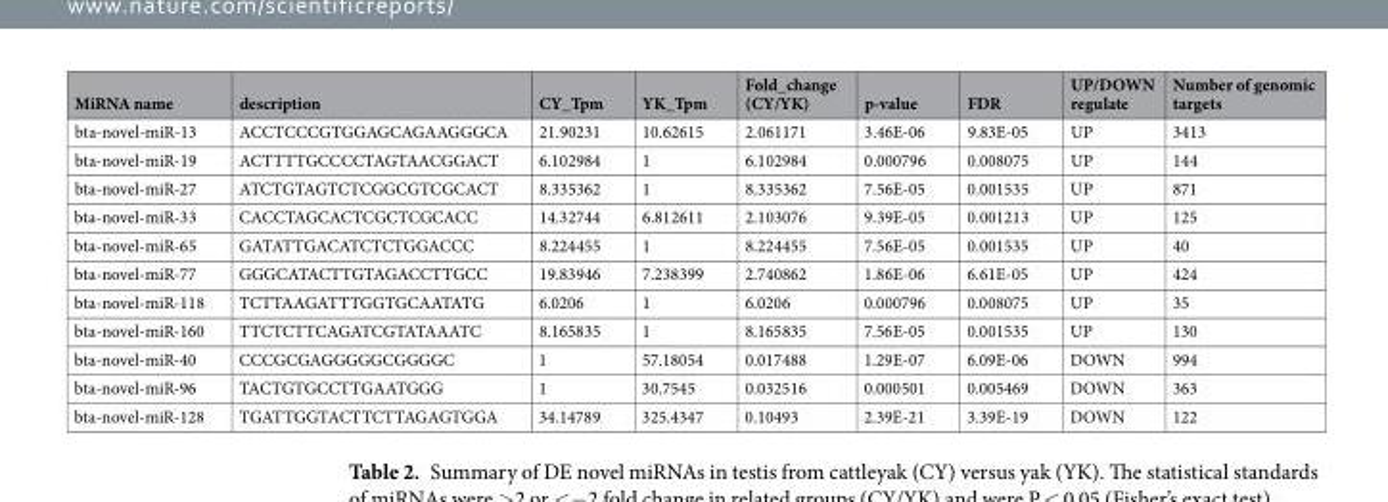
<table><thead><tr><td>MiRNA name</td><td>description</td><td>CY_Tpm</td><td>YK_Tpm</td><td>Fold_change (CY/YK)</td><td>p-value</td><td>FDR</td><td>UP/DOWN regulate</td><td>Number of genomic targets</td></tr></thead><tbody><tr><td>bta-novel-miR-13</td><td>ACCTCCCGTGGAGCAGAAGGGCA</td><td>21.90231</td><td>10.62615</td><td>2.061171</td><td>3.46E-06</td><td>9.83E-05</td><td>UP</td><td>3413</td></tr><tr><td>bta-novel-miR-19</td><td>ACTTTTGCCCCTAGTAACGGACT</td><td>6.102984</td><td>1</td><td>6.102984</td><td>0.000796</td><td>0.008075</td><td>UP</td><td>144</td></tr><tr><td>bta-novel-miR-27</td><td>ATCTGTAGTCTCGGCGTCGCACT</td><td>8.335362</td><td>1</td><td>8.335362</td><td>7.56E-05</td><td>0.001535</td><td>UP</td><td>871</td></tr><tr><td>bta-novel-miR-33</td><td>CACCTAGCACTCGCTCGCACC</td><td>14.32744</td><td>6.812611</td><td>2.103076</td><td>9.39E-05</td><td>0.001213</td><td>UP</td><td>125</td></tr><tr><td>bta-novel-miR-65</td><td>GATATTGACATCTCTGGACCC</td><td>8.224455</td><td>1</td><td>8.224455</td><td>7.56E-05</td><td>0.001535</td><td>UP</td><td>40</td></tr><tr><td>bta-novel-miR-77</td><td>GGGCATACTTGTAGACCTTGCC</td><td>19.83946</td><td>7.238399</td><td>2.740862</td><td>1.86E-06</td><td>6.61E-05</td><td>UP</td><td>424</td></tr><tr><td>bta-novel-miR-118</td><td>TCTTAAGATTTGGTGCAATATG</td><td>6.0206</td><td>1</td><td>6.0206</td><td>0.000796</td><td>0.008075</td><td>UP</td><td>35</td></tr><tr><td>bta-novel-miR-160</td><td>TTCTCTTCAGATCGTATAAATC</td><td>8.165835</td><td>1</td><td>8.165835</td><td>7.56E-05</td><td>0.001535</td><td>UP</td><td>130</td></tr><tr><td>bta-novel-miR-40</td><td>CCCGCGAGGGGGCGGGGC</td><td>1</td><td>57.18054</td><td>0.017488</td><td>1.29E-07</td><td>6.09E-06</td><td>DOWN</td><td>994</td></tr><tr><td>bta-novel-miR-96</td><td>TACTGTGCCTTGAATGGG</td><td>1</td><td>30.7545</td><td>0.032516</td><td>0.000501</td><td>0.005469</td><td>DOWN</td><td>363</td></tr><tr><td>bta-novel-miR-128</td><td>TGATTGGTACTTCTTAGAGTGGA</td><td>34.14789</td><td>325.4347</td><td>0.10493</td><td>2.39E-21</td><td>3.39E-19</td><td>DOWN</td><td>122</td></tr></tbody></table>